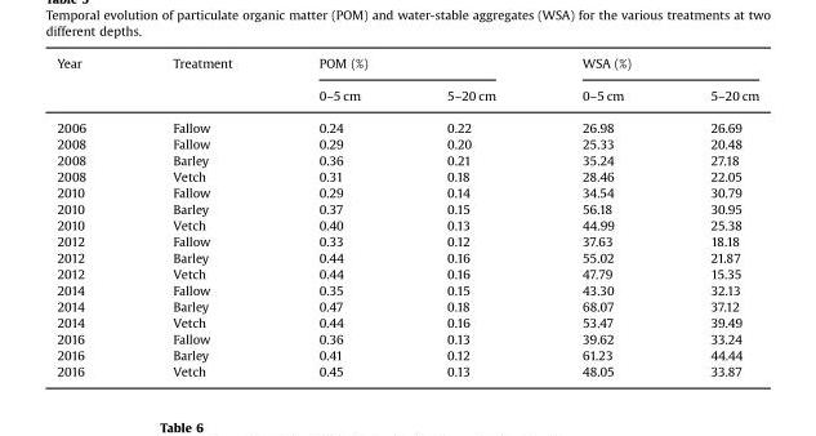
<table><thead><tr><td rowspan="2">Year</td><td rowspan="2">Treatment</td><td colspan="2">POM (%)</td><td colspan="2">WSA (%)</td></tr><tr><td>0–5 cm</td><td>5–20 cm</td><td>0–5 cm</td><td>5–20 cm</td></tr></thead><tbody><tr><td>2006</td><td>Fallow</td><td>0.24</td><td>0.22</td><td>26.98</td><td>26.69</td></tr><tr><td>2008</td><td>Fallow</td><td>0.29</td><td>0.20</td><td>25.33</td><td>20.48</td></tr><tr><td>2008</td><td>Barley</td><td>0.36</td><td>0.21</td><td>35.24</td><td>27.18</td></tr><tr><td>2008</td><td>Vetch</td><td>0.31</td><td>0.18</td><td>28.46</td><td>22.05</td></tr><tr><td>2010</td><td>Fallow</td><td>0.29</td><td>0.14</td><td>34.54</td><td>30.79</td></tr><tr><td>2010</td><td>Barley</td><td>0.37</td><td>0.15</td><td>56.18</td><td>30.95</td></tr><tr><td>2010</td><td>Vetch</td><td>0.40</td><td>0.13</td><td>44.99</td><td>25.38</td></tr><tr><td>2012</td><td>Fallow</td><td>0.33</td><td>0.12</td><td>37.63</td><td>18.18</td></tr><tr><td>2012</td><td>Barley</td><td>0.44</td><td>0.16</td><td>55.02</td><td>21.87</td></tr><tr><td>2012</td><td>Vetch</td><td>0.44</td><td>0.16</td><td>47.79</td><td>15.35</td></tr><tr><td>2014</td><td>Fallow</td><td>0.35</td><td>0.15</td><td>43.30</td><td>32.13</td></tr><tr><td>2014</td><td>Barley</td><td>0.47</td><td>0.18</td><td>68.07</td><td>37.12</td></tr><tr><td>2014</td><td>Vetch</td><td>0.44</td><td>0.16</td><td>53.47</td><td>39.49</td></tr><tr><td>2016</td><td>Fallow</td><td>0.36</td><td>0.13</td><td>39.62</td><td>33.24</td></tr><tr><td>2016</td><td>Barley</td><td>0.41</td><td>0.12</td><td>61.23</td><td>44.44</td></tr><tr><td>2016</td><td>Vetch</td><td>0.45</td><td>0.13</td><td>48.05</td><td>33.87</td></tr></tbody></table>